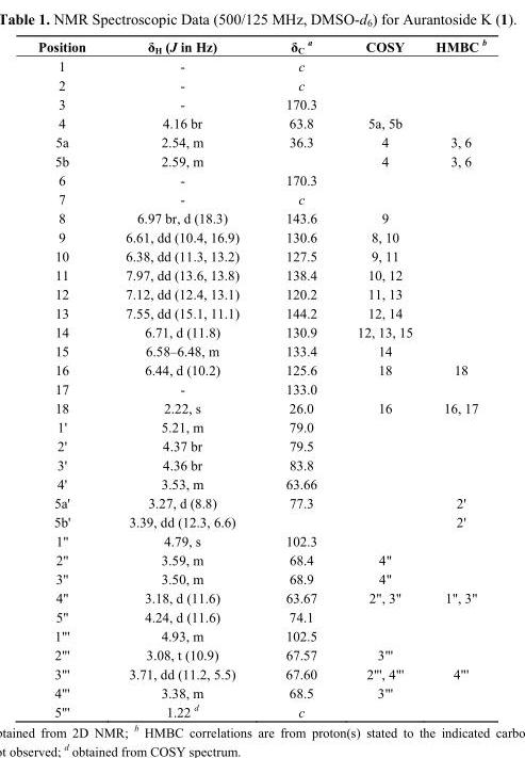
<table><thead><tr><td>Position</td><td>δ<sub>H</sub> (J in Hz)</td><td>δ<sub>C</sub> <sup>a</sup></td><td>COSY</td><td>HMBC <sup>b</sup></td></tr></thead><tbody><tr><td>1</td><td>-</td><td>c</td><td></td><td></td></tr><tr><td>2</td><td>-</td><td>c</td><td></td><td></td></tr><tr><td>3</td><td>-</td><td>170.3</td><td></td><td></td></tr><tr><td>4</td><td>4.16 br</td><td>63.8</td><td>5a, 5b</td><td></td></tr><tr><td>5a</td><td>2.54, m</td><td>36.3</td><td>4</td><td>3, 6</td></tr><tr><td>5b</td><td>2.59, m</td><td></td><td>4</td><td>3, 6</td></tr><tr><td>6</td><td>-</td><td>170.3</td><td></td><td></td></tr><tr><td>7</td><td>-</td><td>c</td><td></td><td></td></tr><tr><td>8</td><td>6.97 br, d (18.3)</td><td>143.6</td><td>9</td><td></td></tr><tr><td>9</td><td>6.61, dd (10.4, 16.9)</td><td>130.6</td><td>8, 10</td><td></td></tr><tr><td>10</td><td>6.38, dd (11.3, 13.2)</td><td>127.5</td><td>9, 11</td><td></td></tr><tr><td>11</td><td>7.97, dd (13.6, 13.8)</td><td>138.4</td><td>10, 12</td><td></td></tr><tr><td>12</td><td>7.12, dd (12.4, 13.1)</td><td>120.2</td><td>11, 13</td><td></td></tr><tr><td>13</td><td>7.55, dd (15.1, 11.1)</td><td>144.2</td><td>12, 14</td><td></td></tr><tr><td>14</td><td>6.71, d (11.8)</td><td>130.9</td><td>12, 13, 15</td><td></td></tr><tr><td>15</td><td>6.58–6.48, m</td><td>133.4</td><td>14</td><td></td></tr><tr><td>16</td><td>6.44, d (10.2)</td><td>125.6</td><td>18</td><td>18</td></tr><tr><td>17</td><td>-</td><td>133.0</td><td></td><td></td></tr><tr><td>18</td><td>2.22, s</td><td>26.0</td><td>16</td><td>16, 17</td></tr><tr><td>1&#x27;</td><td>5.21, m</td><td>79.0</td><td></td><td></td></tr><tr><td>2&#x27;</td><td>4.37 br</td><td>79.5</td><td></td><td></td></tr><tr><td>3&#x27;</td><td>4.36 br</td><td>83.8</td><td></td><td></td></tr><tr><td>4&#x27;</td><td>3.53, m</td><td>63.66</td><td></td><td></td></tr><tr><td>5a&#x27;</td><td>3.27, d (8.8)</td><td>77.3</td><td></td><td>2&#x27;</td></tr><tr><td>5b&#x27;</td><td>3.39, dd (12.3, 6.6)</td><td></td><td></td><td>2&#x27;</td></tr><tr><td>1&quot;</td><td>4.79, s</td><td>102.3</td><td></td><td></td></tr><tr><td>2&quot;</td><td>3.59, m</td><td>68.4</td><td>4&quot;</td><td></td></tr><tr><td>3&quot;</td><td>3.50, m</td><td>68.9</td><td>4&quot;</td><td></td></tr><tr><td>4&quot;</td><td>3.18, d (11.6)</td><td>63.67</td><td>2&quot;, 3&quot;</td><td>1&quot;, 3&quot;</td></tr><tr><td>5&quot;</td><td>4.24, d (11.6)</td><td>74.1</td><td></td><td></td></tr><tr><td>1&quot;&#x27;</td><td>4.93, m</td><td>102.5</td><td></td><td></td></tr><tr><td>2&quot;&#x27;</td><td>3.08, t (10.9)</td><td>67.57</td><td>3&quot;&#x27;</td><td></td></tr><tr><td>3&quot;&#x27;</td><td>3.71, dd (11.2, 5.5)</td><td>67.60</td><td>2&quot;&#x27;, 4&quot;&#x27;</td><td>4&quot;&#x27;</td></tr><tr><td>4&quot;&#x27;</td><td>3.38, m</td><td>68.5</td><td>3&quot;&#x27;</td><td></td></tr><tr><td>5&quot;&#x27;</td><td>1.22 <sup>d</sup></td><td>c</td><td></td><td></td></tr></tbody></table>